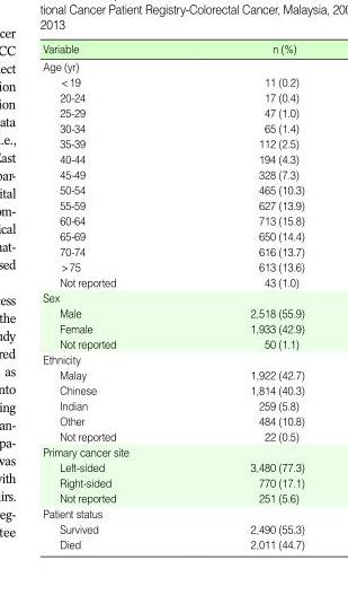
<table><thead><tr><td>Variable</td><td>n (%)</td></tr></thead><tbody><tr><td colspan="2">Age (yr)</td></tr><tr><td>&lt;19</td><td>11 (0.2)</td></tr><tr><td>20-24</td><td>17 (0.4)</td></tr><tr><td>25-29</td><td>47 (1.0)</td></tr><tr><td>30-34</td><td>65 (1.4)</td></tr><tr><td>35-39</td><td>112 (2.5)</td></tr><tr><td>40-44</td><td>194 (4.3)</td></tr><tr><td>45-49</td><td>328 (7.3)</td></tr><tr><td>50-54</td><td>465 (10.3)</td></tr><tr><td>55-59</td><td>627 (13.9)</td></tr><tr><td>60-64</td><td>713 (15.8)</td></tr><tr><td>65-69</td><td>650 (14.4)</td></tr><tr><td>70-74</td><td>616 (13.7)</td></tr><tr><td>&gt;75</td><td>613 (13.6)</td></tr><tr><td>Not reported</td><td>43 (1.0)</td></tr><tr><td colspan="2">Sex</td></tr><tr><td>Male</td><td>2,518 (55.9)</td></tr><tr><td>Female</td><td>1,933 (42.9)</td></tr><tr><td>Not reported</td><td>50 (1.1)</td></tr><tr><td colspan="2">Ethnicity</td></tr><tr><td>Malay</td><td>1,922 (42.7)</td></tr><tr><td>Chinese</td><td>1,814 (40.3)</td></tr><tr><td>Indian</td><td>259 (5.8)</td></tr><tr><td>Other</td><td>484 (10.8)</td></tr><tr><td>Not reported</td><td>22 (0.5)</td></tr><tr><td colspan="2">Primary cancer site</td></tr><tr><td>Left-sided</td><td>3,480 (77.3)</td></tr><tr><td>Right-sided</td><td>770 (17.1)</td></tr><tr><td>Not reported</td><td>251 (5.6)</td></tr><tr><td colspan="2">Patient status</td></tr><tr><td>Survived</td><td>2,490 (55.3)</td></tr><tr><td>Died</td><td>2,011 (44.7)</td></tr></tbody></table>